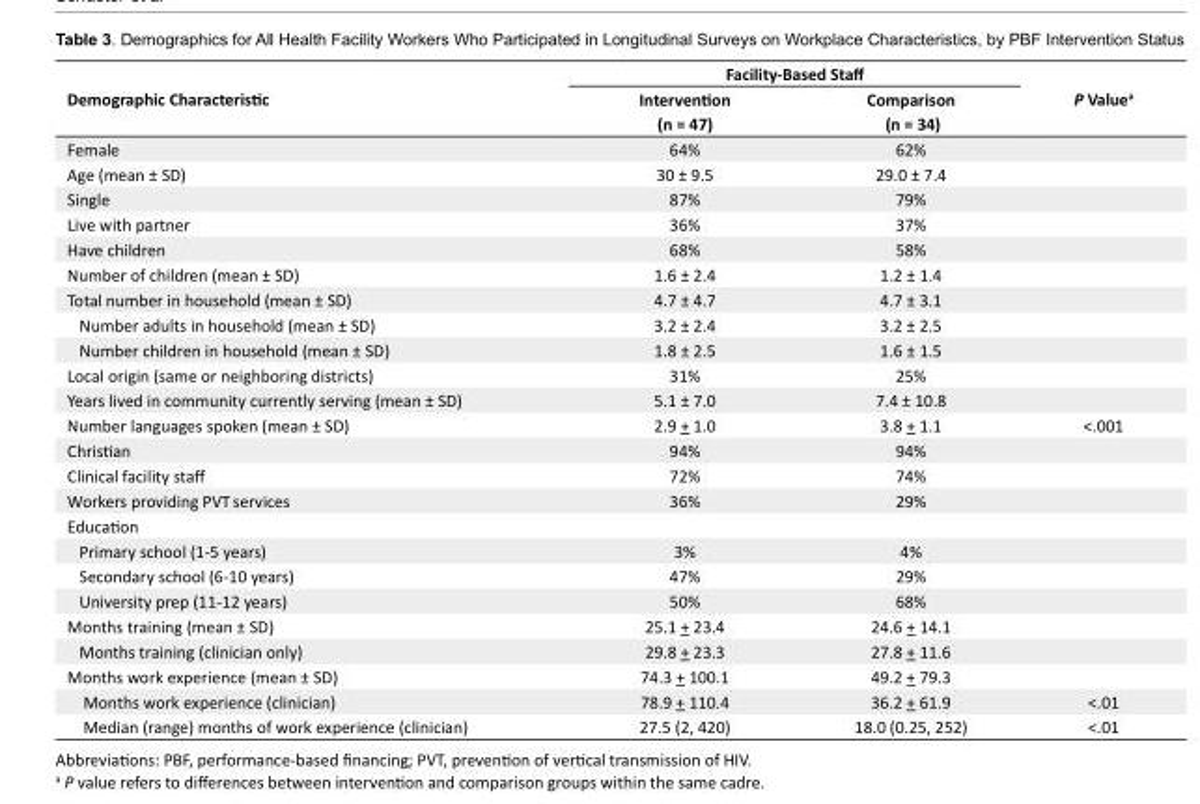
<table><tbody><tr><td rowspan="3">Demographic Characteristic</td><td colspan="2">Facility-Based Staff</td><td rowspan="3">P Value<sup>a</sup></td></tr><tr><td>Intervention</td><td>Comparison</td></tr><tr><td>(n = 47)</td><td>(n = 34)</td></tr><tr><td>Female</td><td>64%</td><td>62%</td><td></td></tr><tr><td>Age (mean ± SD)</td><td>30 ± 9.5</td><td>29.0 ± 7.4</td><td></td></tr><tr><td>Single</td><td>87%</td><td>79%</td><td></td></tr><tr><td>Live with partner</td><td>36%</td><td>37%</td><td></td></tr><tr><td>Have children</td><td>68%</td><td>58%</td><td></td></tr><tr><td>Number of children (mean ± SD)</td><td>1.6 ± 2.4</td><td>1.2 ± 1.4</td><td></td></tr><tr><td>Total number in household (mean ± SD)</td><td>4.7 ± 4.7</td><td>4.7 ± 3.1</td><td></td></tr><tr><td>Number adults in household (mean ± SD)</td><td>3.2 ± 2.4</td><td>3.2 ± 2.5</td><td></td></tr><tr><td>Number children in household (mean ± SD)</td><td>1.8 ± 2.5</td><td>1.6 ± 1.5</td><td></td></tr><tr><td>Local origin (same or neighboring districts)</td><td>31%</td><td>25%</td><td></td></tr><tr><td>Years lived in community currently serving (mean ± SD)</td><td>5.1 ± 7.0</td><td>7.4 ± 10.8</td><td></td></tr><tr><td>Number languages spoken (mean ± SD)</td><td>2.9 + 1.0</td><td>3.8 + 1.1</td><td>&lt;.001</td></tr><tr><td>Christian</td><td>94%</td><td>94%</td><td></td></tr><tr><td>Clinical facility staff</td><td>72%</td><td>74%</td><td></td></tr><tr><td>Workers providing PVT services</td><td>36%</td><td>29%</td><td></td></tr><tr><td colspan="4">Education</td></tr><tr><td>Primary school (1-5 years)</td><td>3%</td><td>4%</td><td></td></tr><tr><td>Secondary school (6-10 years)</td><td>47%</td><td>29%</td><td></td></tr><tr><td>University prep (11-12 years)</td><td>50%</td><td>68%</td><td></td></tr><tr><td>Months training (mean ± SD)</td><td>25.1 + 23.4</td><td>24.6 + 14.1</td><td></td></tr><tr><td>Months training (clinician only)</td><td>29.8 + 23.3</td><td>27.8 + 11.6</td><td></td></tr><tr><td>Months work experience (mean ± SD)</td><td>74.3 + 100.1</td><td>49.2 + 79.3</td><td></td></tr><tr><td>Months work experience (clinician)</td><td>78.9 + 110.4</td><td>36.2 + 61.9</td><td>&lt;.01</td></tr><tr><td>Median (range) months of work experience (clinician)</td><td>27.5 (2, 420)</td><td>18.0 (0.25, 252)</td><td>&lt;.01</td></tr></tbody></table>